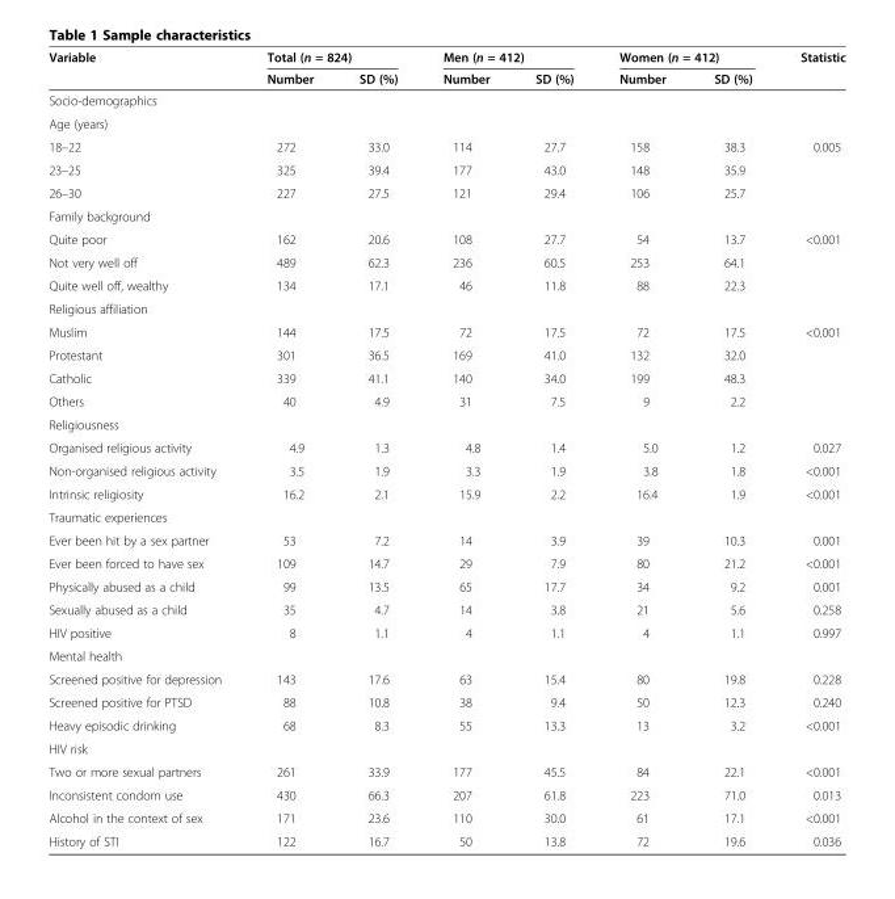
<table><thead><tr><td rowspan="2">Variable</td><td colspan="2">Total (n = 824)</td><td colspan="2">Men (n = 412)</td><td colspan="2">Women (n = 412)</td><td rowspan="2">Statistic</td></tr><tr><td>Number</td><td>SD (%)</td><td>Number</td><td>SD (%)</td><td>Number</td><td>SD (%)</td></tr></thead><tbody><tr><td colspan="8">Socio-demographics</td></tr><tr><td colspan="8">Age (years)</td></tr><tr><td>18–22</td><td>272</td><td>33.0</td><td>114</td><td>27.7</td><td>158</td><td>38.3</td><td rowspan="3">0.005</td></tr><tr><td>23–25</td><td>325</td><td>39.4</td><td>177</td><td>43.0</td><td>148</td><td>35.9</td></tr><tr><td>26–30</td><td>227</td><td>27.5</td><td>121</td><td>29.4</td><td>106</td><td>25.7</td></tr><tr><td colspan="8">Family background</td></tr><tr><td>Quite poor</td><td>162</td><td>20.6</td><td>108</td><td>27.7</td><td>54</td><td>13.7</td><td rowspan="3">&lt;0.001</td></tr><tr><td>Not very well off</td><td>489</td><td>62.3</td><td>236</td><td>60.5</td><td>253</td><td>64.1</td></tr><tr><td>Quite well off, wealthy</td><td>134</td><td>17.1</td><td>46</td><td>11.8</td><td>88</td><td>22.3</td></tr><tr><td colspan="8">Religious affiliation</td></tr><tr><td>Muslim</td><td>144</td><td>17.5</td><td>72</td><td>17.5</td><td>72</td><td>17.5</td><td rowspan="5">&lt;0.001</td></tr><tr><td>Protestant</td><td>301</td><td>36.5</td><td>169</td><td>41.0</td><td>132</td><td>32.0</td></tr><tr><td>Catholic</td><td>339</td><td>41.1</td><td>140</td><td>34.0</td><td>199</td><td>48.3</td></tr><tr><td>Others</td><td>40</td><td>4.9</td><td>31</td><td>7.5</td><td>9</td><td>2.2</td></tr><tr><td colspan="7">Religiousness</td></tr><tr><td>Organised religious activity</td><td>4.9</td><td>1.3</td><td>4.8</td><td>1.4</td><td>5.0</td><td>1.2</td><td>0.027</td></tr><tr><td>Non-organised religious activity</td><td>3.5</td><td>1.9</td><td>3.3</td><td>1.9</td><td>3.8</td><td>1.8</td><td>&lt;0.001</td></tr><tr><td>Intrinsic religiosity</td><td>16.2</td><td>2.1</td><td>15.9</td><td>2.2</td><td>16.4</td><td>1.9</td><td>&lt;0.001</td></tr><tr><td colspan="8">Traumatic experiences</td></tr><tr><td>Ever been hit by a sex partner</td><td>53</td><td>7.2</td><td>14</td><td>3.9</td><td>39</td><td>10.3</td><td>0.001</td></tr><tr><td>Ever been forced to have sex</td><td>109</td><td>14.7</td><td>29</td><td>7.9</td><td>80</td><td>21.2</td><td>&lt;0.001</td></tr><tr><td>Physically abused as a child</td><td>99</td><td>13.5</td><td>65</td><td>17.7</td><td>34</td><td>9.2</td><td>0.001</td></tr><tr><td>Sexually abused as a child</td><td>35</td><td>4.7</td><td>14</td><td>3.8</td><td>21</td><td>5.6</td><td>0.258</td></tr><tr><td>HIV positive</td><td>8</td><td>1.1</td><td>4</td><td>1.1</td><td>4</td><td>1.1</td><td>0.997</td></tr><tr><td colspan="8">Mental health</td></tr><tr><td>Screened positive for depression</td><td>143</td><td>17.6</td><td>63</td><td>15.4</td><td>80</td><td>19.8</td><td>0.228</td></tr><tr><td>Screened positive for PTSD</td><td>88</td><td>10.8</td><td>38</td><td>9.4</td><td>50</td><td>12.3</td><td>0.240</td></tr><tr><td>Heavy episodic drinking</td><td>68</td><td>8.3</td><td>55</td><td>13.3</td><td>13</td><td>3.2</td><td>&lt;0.001</td></tr><tr><td colspan="8">HIV risk</td></tr><tr><td>Two or more sexual partners</td><td>261</td><td>33.9</td><td>177</td><td>45.5</td><td>84</td><td>22.1</td><td>&lt;0.001</td></tr><tr><td>Inconsistent condom use</td><td>430</td><td>66.3</td><td>207</td><td>61.8</td><td>223</td><td>71.0</td><td>0.013</td></tr><tr><td>Alcohol in the context of sex</td><td>171</td><td>23.6</td><td>110</td><td>30.0</td><td>61</td><td>17.1</td><td>&lt;0.001</td></tr><tr><td>History of STI</td><td>122</td><td>16.7</td><td>50</td><td>13.8</td><td>72</td><td>19.6</td><td>0.036</td></tr></tbody></table>